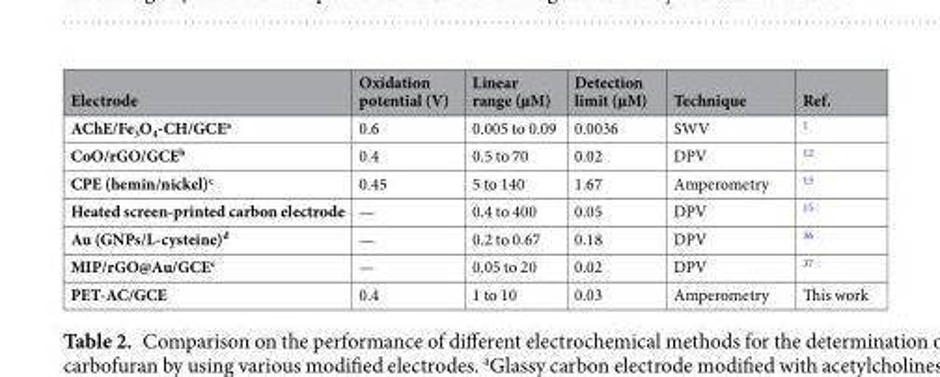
<table><thead><tr><td>Electrode</td><td>Oxidation potential (V)</td><td>Linear range (µM)</td><td>Detection limit (µM)</td><td>Technique</td><td>Ref.</td></tr></thead><tbody><tr><td>AChE/Fe<sub>3</sub>O<sub>4</sub>-CH/GCE<sup>a</sup></td><td>0.6</td><td>0.005 to 0.09</td><td>0.0036</td><td>SWV</td><td><sup>1</sup></td></tr><tr><td>CoO/rGO/GCE<sup>b</sup></td><td>0.4</td><td>0.5 to 70</td><td>0.02</td><td>DPV</td><td><sup>12</sup></td></tr><tr><td>CPE (hemin/nickel)<sup>c</sup></td><td>0.45</td><td>5 to 140</td><td>1.67</td><td>Amperometry</td><td><sup>13</sup></td></tr><tr><td>Heated screen-printed carbon electrode</td><td>—</td><td>0.4 to 400</td><td>0.05</td><td>DPV</td><td><sup>15</sup></td></tr><tr><td>Au (GNPs/L-cysteine)<sup>d</sup></td><td>—</td><td>0.2 to 0.67</td><td>0.18</td><td>DPV</td><td><sup>36</sup></td></tr><tr><td>MIP/rGO@Au/GCE<sup>e</sup></td><td>—</td><td>0.05 to 20</td><td>0.02</td><td>DPV</td><td><sup>37</sup></td></tr><tr><td>PET-AC/GCE</td><td>0.4</td><td>1 to 10</td><td>0.03</td><td>Amperometry</td><td>This work</td></tr></tbody></table>